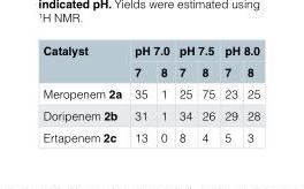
<table><thead><tr><td rowspan="2">Catalyst</td><td colspan="2">pH 7.0</td><td colspan="2">pH 7.5</td><td colspan="2">pH 8.0</td></tr><tr><td>7</td><td>8</td><td>7</td><td>8</td><td>7</td><td>8</td></tr></thead><tbody><tr><td>Meropenem 2a</td><td>35</td><td>1</td><td>25</td><td>75</td><td>23</td><td>25</td></tr><tr><td>Doripenem 2b</td><td>31</td><td>1</td><td>34</td><td>26</td><td>29</td><td>28</td></tr><tr><td>Ertapenem 2c</td><td>13</td><td>0</td><td>8</td><td>4</td><td>5</td><td>3</td></tr></tbody></table>